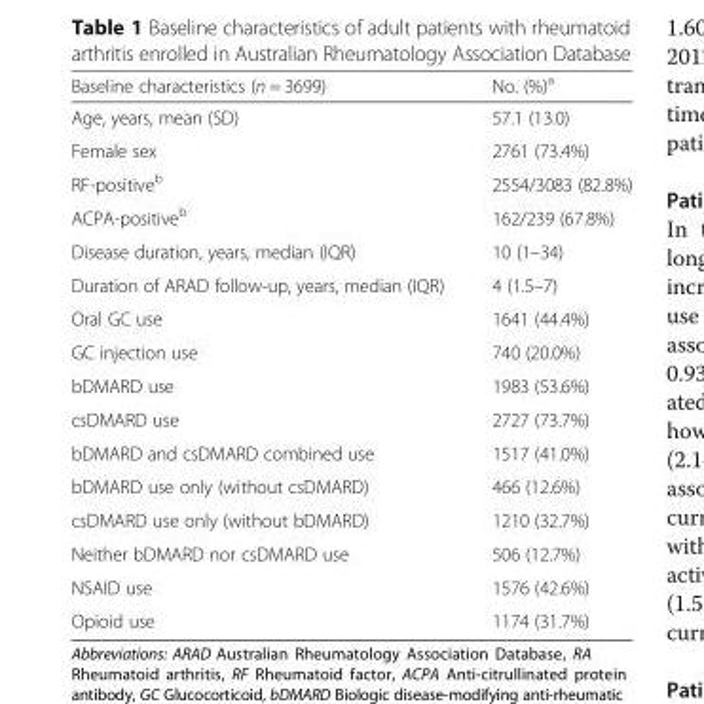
<table><thead><tr><td>Baseline characteristics (n = 3699)</td><td>No. (%)<sup>a</sup></td></tr></thead><tbody><tr><td>Age, years, mean (SD)</td><td>57.1 (13.0)</td></tr><tr><td>Female sex</td><td>2761 (73.4%)</td></tr><tr><td>RF-positive<sup>b</sup></td><td>2554/3083 (82.8%)</td></tr><tr><td>ACPA-positive<sup>b</sup></td><td>162/239 (67.8%)</td></tr><tr><td>Disease duration, years, median (IQR)</td><td>10 (1–34)</td></tr><tr><td>Duration of ARAD follow-up, years, median (IQR)</td><td>4 (1.5–7)</td></tr><tr><td>Oral GC use</td><td>1641 (44.4%)</td></tr><tr><td>GC injection use</td><td>740 (20.0%)</td></tr><tr><td>bDMARD use</td><td>1983 (53.6%)</td></tr><tr><td>csDMARD use</td><td>2727 (73.7%)</td></tr><tr><td>bDMARD and csDMARD combined use</td><td>1517 (41.0%)</td></tr><tr><td>bDMARD use only (without csDMARD)</td><td>466 (12.6%)</td></tr><tr><td>csDMARD use only (without bDMARD)</td><td>1210 (32.7%)</td></tr><tr><td>Neither bDMARD nor csDMARD use</td><td>506 (12.7%)</td></tr><tr><td>NSAID use</td><td>1576 (42.6%)</td></tr><tr><td>Opioid use</td><td>1174 (31.7%)</td></tr></tbody></table>